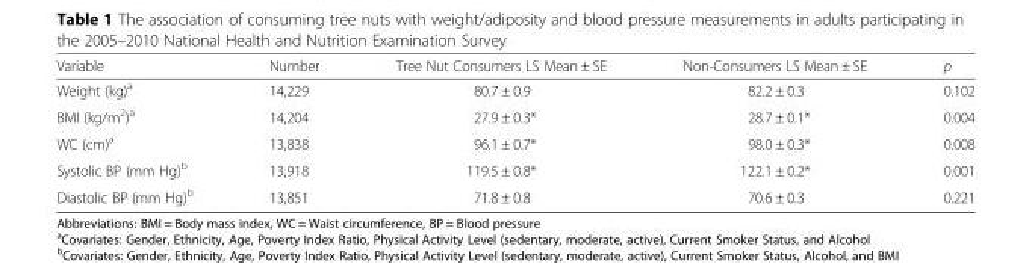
<table><thead><tr><td>Variable</td><td>Number</td><td>Tree Nut Consumers LS Mean ± SE</td><td>Non-Consumers LS Mean ± SE</td><td>p</td></tr></thead><tbody><tr><td>Weight (kg)<sup>a</sup></td><td>14,229</td><td>80.7 ± 0.9</td><td>82.2 ± 0.3</td><td>0.102</td></tr><tr><td>BMI (kg/m<sup>2</sup>)<sup>a</sup></td><td>14,204</td><td>27.9 ± 0.3*</td><td>28.7 ± 0.1*</td><td>0.004</td></tr><tr><td>WC (cm)<sup>a</sup></td><td>13,838</td><td>96.1 ± 0.7*</td><td>98.0 ± 0.3*</td><td>0.008</td></tr><tr><td>Systolic BP (mm Hg)<sup>b</sup></td><td>13,918</td><td>119.5 ± 0.8*</td><td>122.1 ± 0.2*</td><td>0.001</td></tr><tr><td>Diastolic BP (mm Hg)<sup>b</sup></td><td>13,851</td><td>71.8 ± 0.8</td><td>70.6 ± 0.3</td><td>0.221</td></tr></tbody></table>